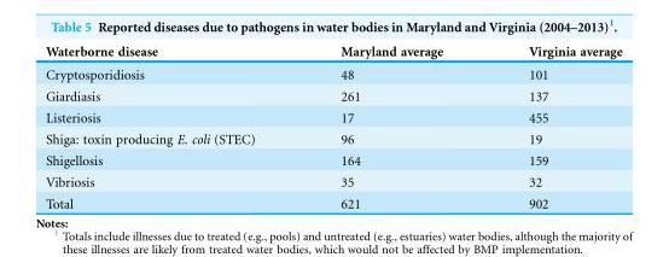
<table><thead><tr><td>Waterborne disease</td><td>Maryland average</td><td>Virginia average</td></tr></thead><tbody><tr><td>Cryptosporidiosis</td><td>48</td><td>101</td></tr><tr><td>Giardiasis</td><td>261</td><td>137</td></tr><tr><td>Listeriosis</td><td>17</td><td>455</td></tr><tr><td>Shiga: toxin producing E. coli (STEC)</td><td>96</td><td>19</td></tr><tr><td>Shigellosis</td><td>164</td><td>159</td></tr><tr><td>Vibriosis</td><td>35</td><td>32</td></tr><tr><td>Total</td><td>621</td><td>902</td></tr></tbody></table>